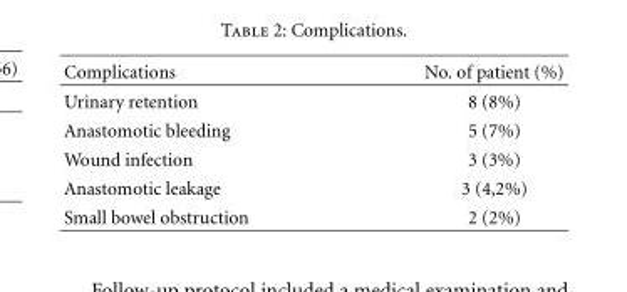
<table><thead><tr><td>Complications</td><td>No. of patient (%)</td></tr></thead><tbody><tr><td>Urinary retention</td><td>8 (8%)</td></tr><tr><td>Anastomotic bleeding</td><td>5 (7%)</td></tr><tr><td>Wound infection</td><td>3 (3%)</td></tr><tr><td>Anastomotic leakage</td><td>3 (4,2%)</td></tr><tr><td>Small bowel obstruction</td><td>2 (2%)</td></tr></tbody></table>